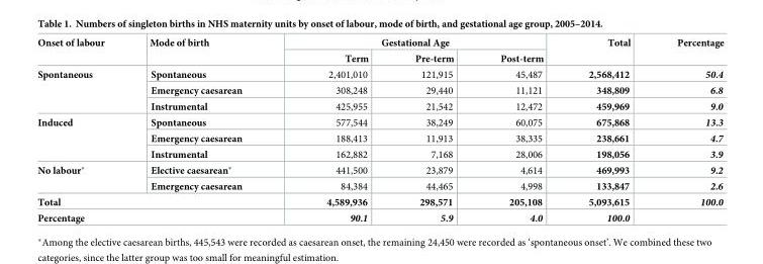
<table><thead><tr><td rowspan="2">Onset of labour</td><td rowspan="2">Mode of birth</td><td colspan="3">Gestational Age</td><td rowspan="2">Total</td><td rowspan="2">Percentage</td></tr><tr><td>Term</td><td>Pre-term</td><td>Post-term</td></tr></thead><tbody><tr><td rowspan="3">Spontaneous</td><td>Spontaneous</td><td>2,401,010</td><td>121,915</td><td>45,487</td><td>2,568,412</td><td>50.4</td></tr><tr><td>Emergency caesarean</td><td>308,248</td><td>29,440</td><td>11,121</td><td>348,809</td><td>6.8</td></tr><tr><td>Instrumental</td><td>425,955</td><td>21,542</td><td>12,472</td><td>459,969</td><td>9.0</td></tr><tr><td rowspan="3">Induced</td><td>Spontaneous</td><td>577,544</td><td>38,249</td><td>60,075</td><td>675,868</td><td>13.3</td></tr><tr><td>Emergency caesarean</td><td>188,413</td><td>11,913</td><td>38,335</td><td>238,661</td><td>4.7</td></tr><tr><td>Instrumental</td><td>162,882</td><td>7,168</td><td>28,006</td><td>198,056</td><td>3.9</td></tr><tr><td rowspan="2">No labour*</td><td>Elective caesarean*</td><td>441,500</td><td>23,879</td><td>4,614</td><td>469,993</td><td>9.2</td></tr><tr><td>Emergency caesarean</td><td>84,384</td><td>44,465</td><td>4,998</td><td>133,847</td><td>2.6</td></tr><tr><td colspan="2">Total</td><td>4,589,936</td><td>298,571</td><td>205,108</td><td>5,093,615</td><td>100.0</td></tr><tr><td colspan="2">Percentage</td><td>90.1</td><td>5.9</td><td>4.0</td><td>100.0</td><td></td></tr></tbody></table>